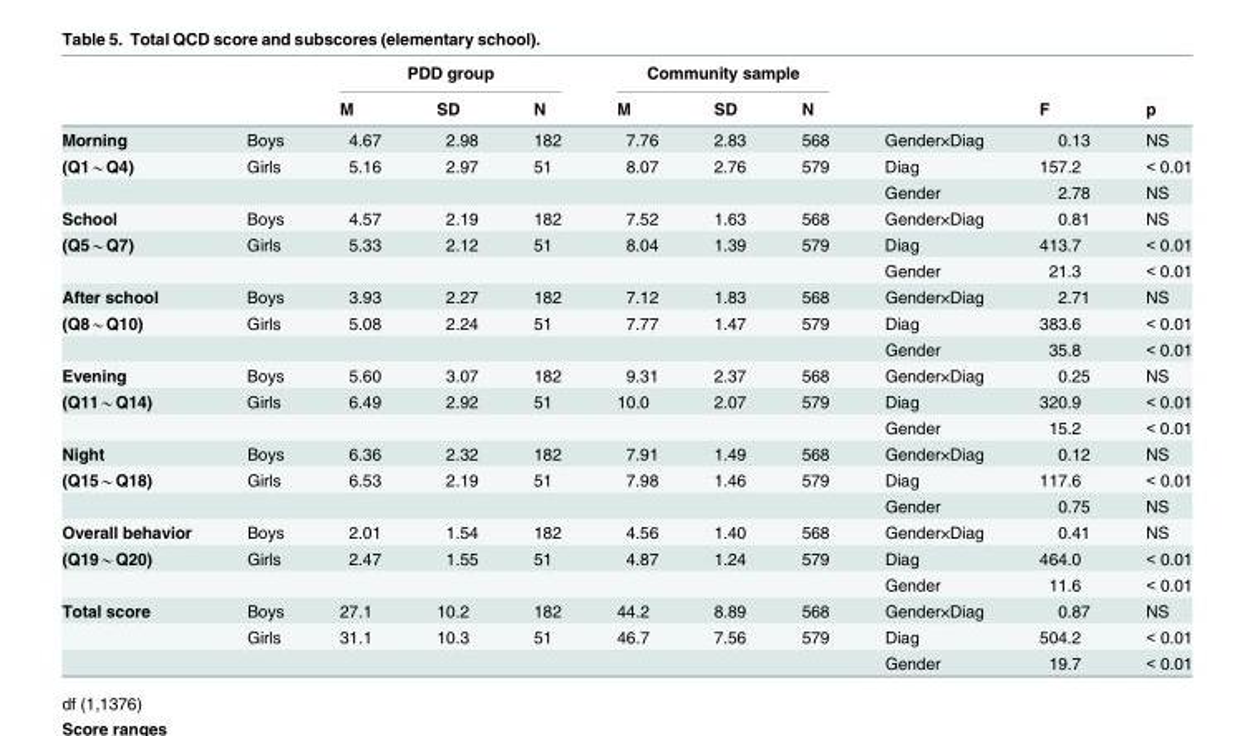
<table><thead><tr><td rowspan="2"></td><td rowspan="2"></td><td colspan="3">PDD group</td><td colspan="3">Community sample</td><td rowspan="2"></td><td rowspan="2">F</td><td rowspan="2">p</td></tr><tr><td>M</td><td>SD</td><td>N</td><td>M</td><td>SD</td><td>N</td></tr></thead><tbody><tr><td>Morning</td><td>Boys</td><td>4.67</td><td>2.98</td><td>182</td><td>7.76</td><td>2.83</td><td>568</td><td>Gender×Diag</td><td>0.13</td><td>NS</td></tr><tr><td rowspan="2">(Q1*Q4)</td><td>Girls</td><td>5.16</td><td>2.97</td><td>51</td><td>8.07</td><td>2.76</td><td>579</td><td>Diag</td><td>157.2</td><td>&lt; 0.01</td></tr><tr><td></td><td></td><td></td><td></td><td></td><td></td><td></td><td>Gender</td><td>2.78</td><td>NS</td></tr><tr><td>School</td><td>Boys</td><td>4.57</td><td>2.19</td><td>182</td><td>7.52</td><td>1.63</td><td>568</td><td>Gender×Diag</td><td>0.81</td><td>NS</td></tr><tr><td rowspan="2">(Q5*Q7)</td><td>Girls</td><td>5.33</td><td>2.12</td><td>51</td><td>8.04</td><td>1.39</td><td>579</td><td>Diag</td><td>413.7</td><td>&lt; 0.01</td></tr><tr><td></td><td></td><td></td><td></td><td></td><td></td><td></td><td>Gender</td><td>21.3</td><td>&lt; 0.01</td></tr><tr><td>After school</td><td>Boys</td><td>3.93</td><td>2.27</td><td>182</td><td>7.12</td><td>1.83</td><td>568</td><td>Gender×Diag</td><td>2.71</td><td>NS</td></tr><tr><td rowspan="2">(Q8*Q10)</td><td>Girls</td><td>5.08</td><td>2.24</td><td>51</td><td>7.77</td><td>1.47</td><td>579</td><td>Diag</td><td>383.6</td><td>&lt; 0.01</td></tr><tr><td></td><td></td><td></td><td></td><td></td><td></td><td></td><td>Gender</td><td>35.8</td><td>&lt; 0.01</td></tr><tr><td>Evening</td><td>Boys</td><td>5.60</td><td>3.07</td><td>182</td><td>9.31</td><td>2.37</td><td>568</td><td>Gender×Diag</td><td>0.25</td><td>NS</td></tr><tr><td rowspan="2">(Q11*Q14)</td><td>Girls</td><td>6.49</td><td>2.92</td><td>51</td><td>10.0</td><td>2.07</td><td>579</td><td>Diag</td><td>320.9</td><td>&lt; 0.01</td></tr><tr><td></td><td></td><td></td><td></td><td></td><td></td><td></td><td>Gender</td><td>15.2</td><td>&lt; 0.01</td></tr><tr><td>Night</td><td>Boys</td><td>6.36</td><td>2.32</td><td>182</td><td>7.91</td><td>1.49</td><td>568</td><td>Gender×Diag</td><td>0.12</td><td>NS</td></tr><tr><td rowspan="2">(Q15*Q18)</td><td>Girls</td><td>6.53</td><td>2.19</td><td>51</td><td>7.98</td><td>1.46</td><td>579</td><td>Diag</td><td>117.6</td><td>&lt; 0.01</td></tr><tr><td></td><td></td><td></td><td></td><td></td><td></td><td></td><td>Gender</td><td>0.75</td><td>NS</td></tr><tr><td>Overall behavior</td><td>Boys</td><td>2.01</td><td>1.54</td><td>182</td><td>4.56</td><td>1.40</td><td>568</td><td>Gender×Diag</td><td>0.41</td><td>NS</td></tr><tr><td rowspan="2">(Q19*Q20)</td><td>Girls</td><td>2.47</td><td>1.55</td><td>51</td><td>4.87</td><td>1.24</td><td>579</td><td>Diag</td><td>464.0</td><td>&lt; 0.01</td></tr><tr><td></td><td></td><td></td><td></td><td></td><td></td><td></td><td>Gender</td><td>11.6</td><td>&lt; 0.01</td></tr><tr><td rowspan="3">Total score</td><td>Boys</td><td>27.1</td><td>10.2</td><td>182</td><td>44.2</td><td>8.89</td><td>568</td><td>Gender×Diag</td><td>0.87</td><td>NS</td></tr><tr><td>Girls</td><td>31.1</td><td>10.3</td><td>51</td><td>46.7</td><td>7.56</td><td>579</td><td>Diag</td><td>504.2</td><td>&lt; 0.01</td></tr><tr><td></td><td></td><td></td><td></td><td></td><td></td><td></td><td>Gender</td><td>19.7</td><td>&lt; 0.01</td></tr></tbody></table>